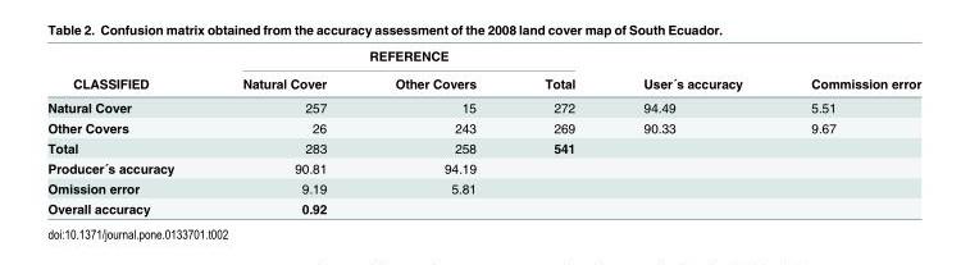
<table><thead><tr><td rowspan="2">CLASSIFIED</td><td colspan="3">REFERENCE</td><td rowspan="2">User´s accuracy</td><td rowspan="2">Commission error</td></tr><tr><td>Natural Cover</td><td>Other Covers</td><td>Total</td></tr></thead><tbody><tr><td>Natural Cover</td><td>257</td><td>15</td><td>272</td><td>94.49</td><td>5.51</td></tr><tr><td>Other Covers</td><td>26</td><td>243</td><td>269</td><td>90.33</td><td>9.67</td></tr><tr><td>Total</td><td>283</td><td>258</td><td>541</td><td></td><td></td></tr><tr><td>Producer´s accuracy</td><td>90.81</td><td>94.19</td><td></td><td></td><td></td></tr><tr><td>Omission error</td><td>9.19</td><td>5.81</td><td></td><td></td><td></td></tr><tr><td>Overall accuracy</td><td>0.92</td><td></td><td></td><td></td><td></td></tr></tbody></table>